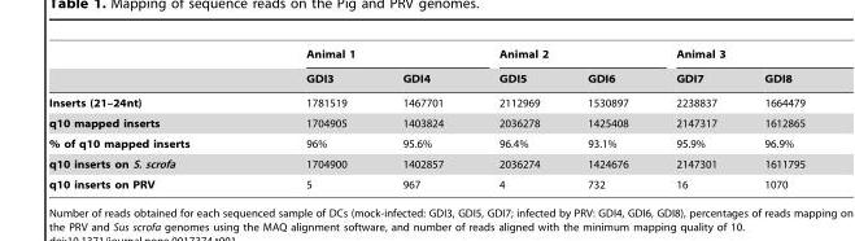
<table><thead><tr><td rowspan="2"></td><td colspan="2">Animal 1</td><td colspan="2">Animal 2</td><td colspan="2">Animal 3</td></tr><tr><td>GDI3</td><td>GDI4</td><td>GDI5</td><td>GDI6</td><td>GDI7</td><td>GDI8</td></tr></thead><tbody><tr><td>Inserts (21–24nt)</td><td>1781519</td><td>1467701</td><td>2112969</td><td>1530897</td><td>2238837</td><td>1664479</td></tr><tr><td>q10 mapped inserts</td><td>1704905</td><td>1403824</td><td>2036278</td><td>1425408</td><td>2147317</td><td>1612865</td></tr><tr><td>% of q10 mapped inserts</td><td>96%</td><td>95.6%</td><td>96.4%</td><td>93.1%</td><td>95.9%</td><td>96.9%</td></tr><tr><td>q10 inserts on S. scrofa</td><td>1704900</td><td>1402857</td><td>2036274</td><td>1424676</td><td>2147301</td><td>1611795</td></tr><tr><td>q10 inserts on PRV</td><td>5</td><td>967</td><td>4</td><td>732</td><td>16</td><td>1070</td></tr></tbody></table>